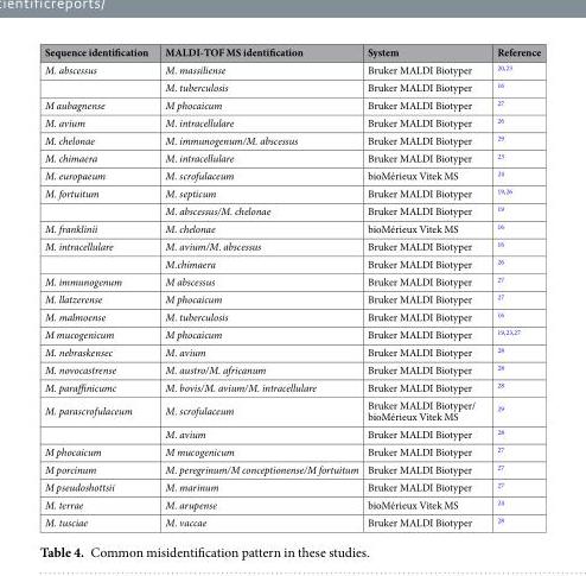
<table><thead><tr><td>Sequence identification</td><td>MALDI-TOF MS identification</td><td>System</td><td>Reference</td></tr></thead><tbody><tr><td rowspan="2">M. abscessus</td><td>M. massiliense</td><td>Bruker MALDI Biotyper</td><td><sup>20,23</sup></td></tr><tr><td>M. tuberculosis</td><td>Bruker MALDI Biotyper</td><td><sup>16</sup></td></tr><tr><td>M aubagnense</td><td>M phocaicum</td><td>Bruker MALDI Biotyper</td><td><sup>27</sup></td></tr><tr><td>M. avium</td><td>M. intracellulare</td><td>Bruker MALDI Biotyper</td><td><sup>26</sup></td></tr><tr><td>M. chelonae</td><td>M. immunogenum/M. abscessus</td><td>Bruker MALDI Biotyper</td><td><sup>29</sup></td></tr><tr><td>M. chimaera</td><td>M. intracellulare</td><td>Bruker MALDI Biotyper</td><td><sup>23</sup></td></tr><tr><td>M. europaeum</td><td>M. scrofulaceum</td><td>bioMérieux Vitek MS</td><td><sup>24</sup></td></tr><tr><td rowspan="2">M. fortuitum</td><td>M. septicum</td><td>Bruker MALDI Biotyper</td><td><sup>19,26</sup></td></tr><tr><td>M. abscessus/M. chelonae</td><td>Bruker MALDI Biotyper</td><td><sup>19</sup></td></tr><tr><td>M. franklinii</td><td>M. chelonae</td><td>bioMérieux Vitek MS</td><td><sup>16</sup></td></tr><tr><td rowspan="2">M. intracellulare</td><td>M. avium/M. abscessus</td><td>Bruker MALDI Biotyper</td><td><sup>16</sup></td></tr><tr><td>M.chimaera</td><td>Bruker MALDI Biotyper</td><td><sup>26</sup></td></tr><tr><td>M. immunogenum</td><td>M abscessus</td><td>Bruker MALDI Biotyper</td><td><sup>27</sup></td></tr><tr><td>M. llatzerense</td><td>M phocaicum</td><td>Bruker MALDI Biotyper</td><td><sup>27</sup></td></tr><tr><td>M. malmoense</td><td>M. tuberculosis</td><td>Bruker MALDI Biotyper</td><td><sup>16</sup></td></tr><tr><td>M mucogenicum</td><td>M phocaicum</td><td>Bruker MALDI Biotyper</td><td><sup>19,23,27</sup></td></tr><tr><td>M. nebraskensec</td><td>M. avium</td><td>Bruker MALDI Biotyper</td><td><sup>28</sup></td></tr><tr><td>M. novocastrense</td><td>M. austro/M. africanum</td><td>Bruker MALDI Biotyper</td><td><sup>28</sup></td></tr><tr><td>M. paraffinicumc</td><td>M. bovis/M. avium/M. intracellulare</td><td>Bruker MALDI Biotyper</td><td><sup>28</sup></td></tr><tr><td rowspan="2">M. parascrofulaceum</td><td>M. scrofulaceum</td><td>Bruker MALDI Biotyper/ bioMérieux Vitek MS</td><td><sup>29</sup></td></tr><tr><td>M. avium</td><td>Bruker MALDI Biotyper</td><td><sup>28</sup></td></tr><tr><td>M phocaicum</td><td>M mucogenicum</td><td>Bruker MALDI Biotyper</td><td><sup>27</sup></td></tr><tr><td>M porcinum</td><td>M. peregrinum/M conceptionense/M fortuitum</td><td>Bruker MALDI Biotyper</td><td><sup>27</sup></td></tr><tr><td>M pseudoshottsii</td><td>M. marinum</td><td>Bruker MALDI Biotyper</td><td><sup>27</sup></td></tr><tr><td>M. terrae</td><td>M. arupense</td><td>bioMérieux Vitek MS</td><td><sup>24</sup></td></tr><tr><td>M. tusciae</td><td>M. vaccae</td><td>Bruker MALDI Biotyper</td><td><sup>28</sup></td></tr></tbody></table>